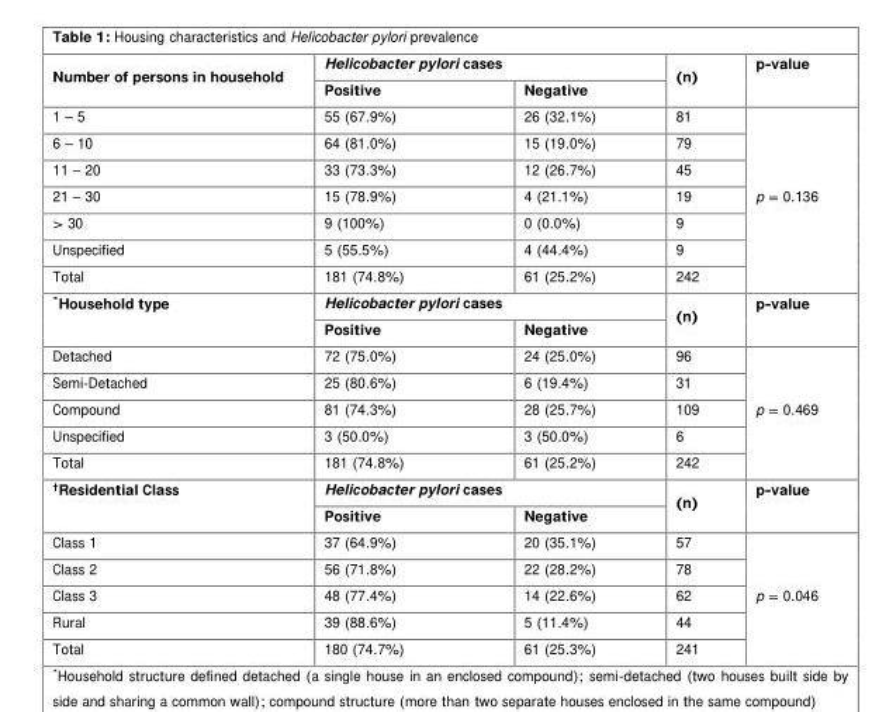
<table><tbody><tr><td rowspan="2">Number of persons in household</td><td colspan="2">Helicobacter pylori cases</td><td rowspan="2">(n)</td><td rowspan="2">p-value</td></tr><tr><td>Positive</td><td>Negative</td></tr><tr><td>1 – 5</td><td>55 (67.9%)</td><td>26 (32.1%)</td><td>81</td><td rowspan="7">p = 0.136</td></tr><tr><td>6 – 10</td><td>64 (81.0%)</td><td>15 (19.0%)</td><td>79</td></tr><tr><td>11 – 20</td><td>33 (73.3%)</td><td>12 (26.7%)</td><td>45</td></tr><tr><td>21 – 30</td><td>15 (78.9%)</td><td>4 (21.1%)</td><td>19</td></tr><tr><td>&gt; 30</td><td>9 (100%)</td><td>0 (0.0%)</td><td>9</td></tr><tr><td>Unspecified</td><td>5 (55.5%)</td><td>4 (44.4%)</td><td>9</td></tr><tr><td>Total</td><td>181 (74.8%)</td><td>61 (25.2%)</td><td>242</td></tr><tr><td rowspan="2">*Household type</td><td colspan="2">Helicobacter pylori cases</td><td rowspan="2">(n)</td><td rowspan="2">p-value</td></tr><tr><td>Positive</td><td>Negative</td></tr><tr><td>Detached</td><td>72 (75.0%)</td><td>24 (25.0%)</td><td>96</td><td rowspan="5">p = 0.469</td></tr><tr><td>Semi-Detached</td><td>25 (80.6%)</td><td>6 (19.4%)</td><td>31</td></tr><tr><td>Compound</td><td>81 (74.3%)</td><td>28 (25.7%)</td><td>109</td></tr><tr><td>Unspecified</td><td>3 (50.0%)</td><td>3 (50.0%)</td><td>6</td></tr><tr><td>Total</td><td>181 (74.8%)</td><td>61 (25.2%)</td><td>242</td></tr><tr><td rowspan="2">†Residential Class</td><td colspan="2">Helicobacter pylori cases</td><td rowspan="2">(n)</td><td rowspan="2">p-value</td></tr><tr><td>Positive</td><td>Negative</td></tr><tr><td>Class 1</td><td>37 (64.9%)</td><td>20 (35.1%)</td><td>57</td><td rowspan="5">p = 0.046</td></tr><tr><td>Class 2</td><td>56 (71.8%)</td><td>22 (28.2%)</td><td>78</td></tr><tr><td>Class 3</td><td>48 (77.4%)</td><td>14 (22.6%)</td><td>62</td></tr><tr><td>Rural</td><td>39 (88.6%)</td><td>5 (11.4%)</td><td>44</td></tr><tr><td>Total</td><td>180 (74.7%)</td><td>61 (25.3%)</td><td>241</td></tr></tbody></table>